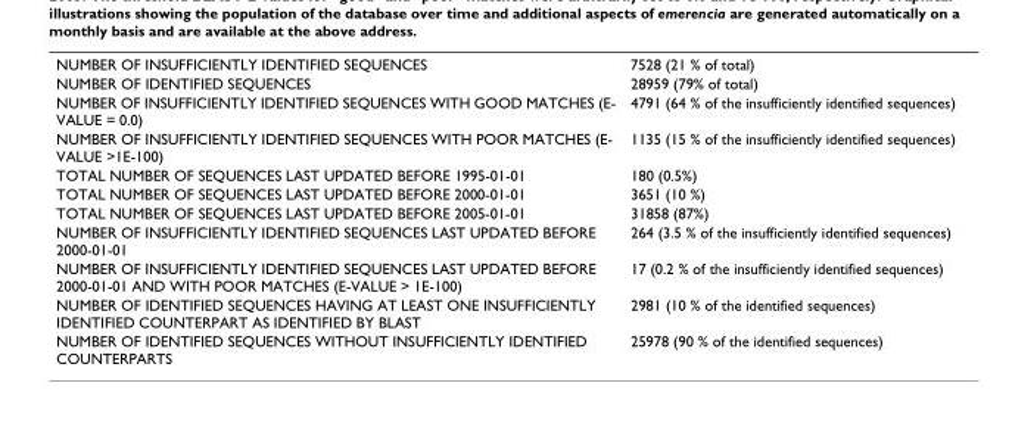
<table><tbody><tr><td>NUMBER OF INSUFFICIENTLY IDENTIFIED SEQUENCES</td><td>7528 (21 % of total)</td></tr><tr><td>NUMBER OF IDENTIFIED SEQUENCES</td><td>28959 (79% of total)</td></tr><tr><td>NUMBER OF INSUFFICIENTLY IDENTIFIED SEQUENCES WITH GOOD MATCHES (E- VALUE = 0.0)</td><td>4791 (64 % of the insufficiently identified sequences)</td></tr><tr><td>NUMBER OF INSUFFICIENTLY IDENTIFIED SEQUENCES WITH POOR MATCHES (E- VALUE &gt;1E-100)</td><td>1135 (15 % of the insufficiently identified sequences)</td></tr><tr><td>TOTAL NUMBER OF SEQUENCES LAST UPDATED BEFORE 1995-01-01</td><td>180 (0.5%)</td></tr><tr><td>TOTAL NUMBER OF SEQUENCES LAST UPDATED BEFORE 2000-01-01</td><td>3651 (10 %)</td></tr><tr><td>TOTAL NUMBER OF SEQUENCES LAST UPDATED BEFORE 2005-01-01</td><td>31858 (87%)</td></tr><tr><td>NUMBER OF INSUFFICIENTLY IDENTIFIED SEQUENCES LAST UPDATED BEFORE 2000-01-01</td><td>264 (3.5 % of the insufficiently identified sequences)</td></tr><tr><td>NUMBER OF INSUFFICIENTLY IDENTIFIED SEQUENCES LAST UPDATED BEFORE 2000-01-01 AND WITH POOR MATCHES (E-VALUE &gt; 1E-100)</td><td>17 (0.2 % of the insufficiently identified sequences)</td></tr><tr><td>NUMBER OF IDENTIFIED SEQUENCES HAVING AT LEAST ONE INSUFFICIENTLY IDENTIFIED COUNTERPART AS IDENTIFIED BY BLAST</td><td>2981 (10 % of the identified sequences)</td></tr><tr><td>NUMBER OF IDENTIFIED SEQUENCES WITHOUT INSUFFICIENTLY IDENTIFIED COUNTERPARTS</td><td>25978 (90 % of the identified sequences)</td></tr></tbody></table>